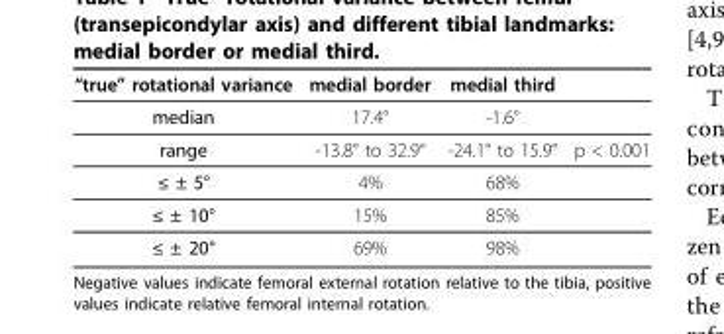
<table><thead><tr><td>“true” rotational variance</td><td>medial border</td><td>medial third</td><td></td></tr></thead><tbody><tr><td>median</td><td>17.4°</td><td>-1.6°</td><td></td></tr><tr><td>range</td><td>-13.8° to 32.9°</td><td>-24.1° to 15.9°</td><td>p &lt; 0.001</td></tr><tr><td>≤ ± 5°</td><td>4%</td><td>68%</td><td></td></tr><tr><td>≤ ± 10°</td><td>15%</td><td>85%</td><td></td></tr><tr><td>≤ ± 20°</td><td>69%</td><td>98%</td><td></td></tr></tbody></table>